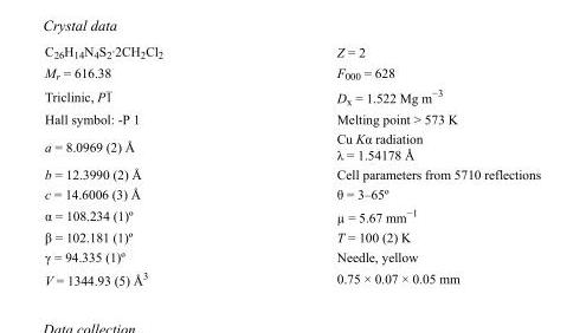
<table><tbody><tr><td>C<sub>26</sub>H<sub>14</sub>N<sub>4</sub>S<sub>2</sub>·2CH<sub>2</sub>Cl<sub>2</sub></td><td>Z = 2</td></tr><tr><td>M<sub>r</sub> = 616.38</td><td>F<sub>000</sub> = 628</td></tr><tr><td>Triclinic, P1</td><td>D<sub>x</sub> = 1.522 Mg m<sup>−3</sup></td></tr><tr><td>Hall symbol: -P 1</td><td>Melting point &gt; 573 K</td></tr><tr><td>a = 8.0969 (2) Å</td><td>Cu Kα radiation λ = 1.54178 Å</td></tr><tr><td>b = 12.3990 (2) Å</td><td>Cell parameters from 5710 reflections</td></tr><tr><td>c = 14.6006 (3) Å</td><td>θ = 3–65º</td></tr><tr><td>α = 108.234 (1)º</td><td>µ = 5.67 mm<sup>−1</sup></td></tr><tr><td>β = 102.181 (1)º</td><td>T = 100 (2) K</td></tr><tr><td>γ = 94.335 (1)º</td><td>Needle, yellow</td></tr><tr><td>V = 1344.93 (5) Å<sup>3</sup></td><td>0.75 × 0.07 × 0.05 mm</td></tr></tbody></table>